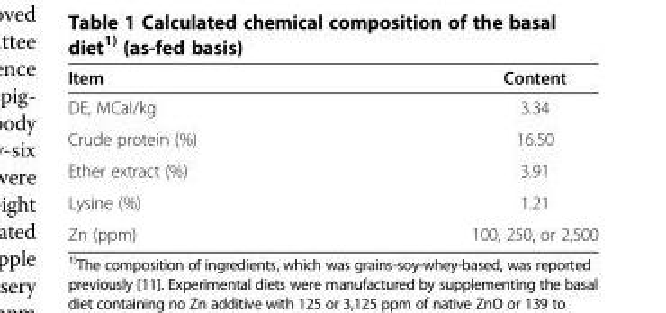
<table><thead><tr><td>Item</td><td>Content</td></tr></thead><tbody><tr><td>DE, MCal/kg</td><td>3.34</td></tr><tr><td>Crude protein (%)</td><td>16.50</td></tr><tr><td>Ether extract (%)</td><td>3.91</td></tr><tr><td>Lysine (%)</td><td>1.21</td></tr><tr><td>Zn (ppm)</td><td>100, 250, or 2,500</td></tr></tbody></table>